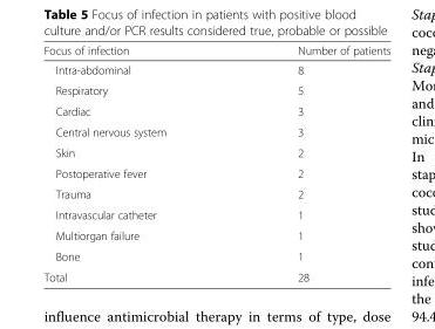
<table><thead><tr><td>Focus of infection</td><td>Number of patients</td></tr></thead><tbody><tr><td>Intra-abdominal</td><td>8</td></tr><tr><td>Respiratory</td><td>5</td></tr><tr><td>Cardiac</td><td>3</td></tr><tr><td>Central nervous system</td><td>3</td></tr><tr><td>Skin</td><td>2</td></tr><tr><td>Postoperative fever</td><td>2</td></tr><tr><td>Trauma</td><td>2</td></tr><tr><td>Intravascular catheter</td><td>1</td></tr><tr><td>Multiorgan failure</td><td>1</td></tr><tr><td>Bone</td><td>1</td></tr><tr><td>Total</td><td>28</td></tr></tbody></table>